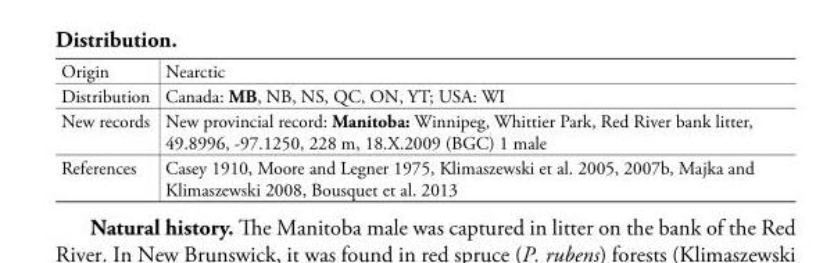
<table><tbody><tr><td>Origin</td><td>Nearctic</td></tr><tr><td>Distribution</td><td>Canada: MB, NB, NS, QC, ON, YT; USA: WI</td></tr><tr><td>New records</td><td>New provincial record: Manitoba: Winnipeg, Whittier Park, Red River bank litter, 49.8996, -97.1250, 228 m, 18.X.2009 (BGC) 1 male</td></tr><tr><td>References</td><td>Casey 1910, Moore and Legner 1975, Klimaszewski et al. 2005, 2007b, Majka and Klimaszewski 2008, Bousquet et al. 2013</td></tr></tbody></table>